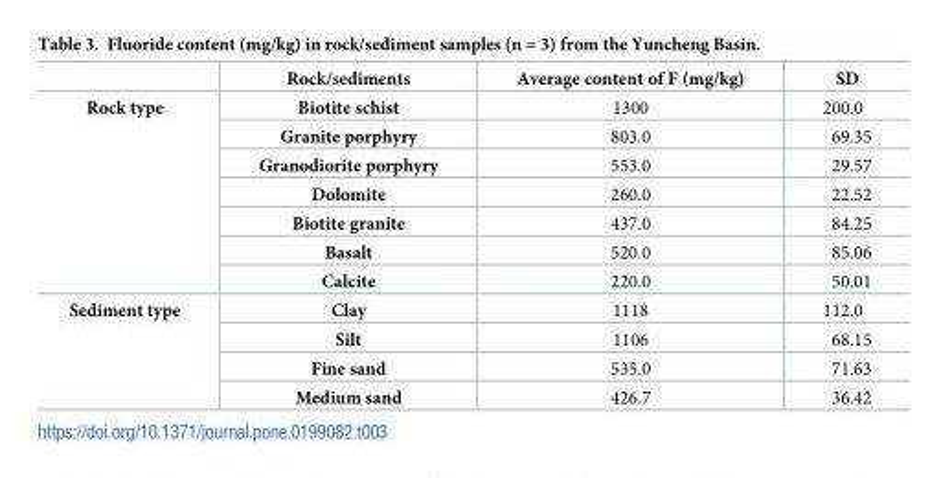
<table><thead><tr><td></td><td>Rock/sediments</td><td>Average content of F (mg/kg)</td><td>SD</td></tr></thead><tbody><tr><td rowspan="7">Rock type</td><td>Biotite schist</td><td>1300</td><td>200.0</td></tr><tr><td>Granite porphyry</td><td>803.0</td><td>69.35</td></tr><tr><td>Granodiorite porphyry</td><td>553.0</td><td>29.57</td></tr><tr><td>Dolomite</td><td>260.0</td><td>22.52</td></tr><tr><td>Biotite granite</td><td>437.0</td><td>84.25</td></tr><tr><td>Basalt</td><td>520.0</td><td>85.06</td></tr><tr><td>Calcite</td><td>220.0</td><td>50.01</td></tr><tr><td rowspan="4">Sediment type</td><td>Clay</td><td>1118</td><td>112.0</td></tr><tr><td>Silt</td><td>1106</td><td>68.15</td></tr><tr><td>Fine sand</td><td>535.0</td><td>71.63</td></tr><tr><td>Medium sand</td><td>426.7</td><td>36.42</td></tr></tbody></table>